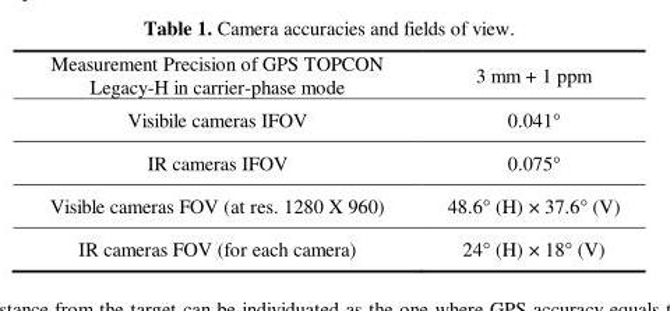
<table><tbody><tr><td>Measurement Precision of GPS TOPCON Legacy-H in carrier-phase mode</td><td>3 mm + 1 ppm</td></tr><tr><td>Visibile cameras IFOV</td><td>0.041°</td></tr><tr><td>IR cameras IFOV</td><td>0.075°</td></tr><tr><td>Visible cameras FOV (at res. 1280 X 960)</td><td>48.6° (H) × 37.6° (V)</td></tr><tr><td>IR cameras FOV (for each camera)</td><td>24° (H) × 18° (V)</td></tr></tbody></table>